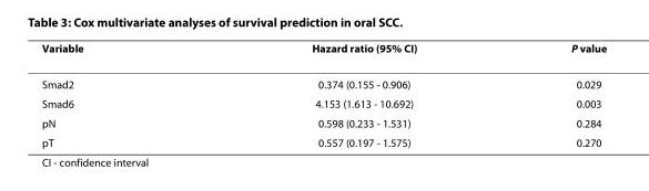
<table><thead><tr><td>Variable</td><td>Hazard ratio (95% CI)</td><td>P value</td></tr></thead><tbody><tr><td>Smad2</td><td>0.374 (0.155 - 0.906)</td><td>0.029</td></tr><tr><td>Smad6</td><td>4.153 (1.613 - 10.692)</td><td>0.003</td></tr><tr><td>pN</td><td>0.598 (0.233 - 1.531)</td><td>0.284</td></tr><tr><td>pT</td><td>0.557 (0.197 - 1.575)</td><td>0.270</td></tr></tbody></table>